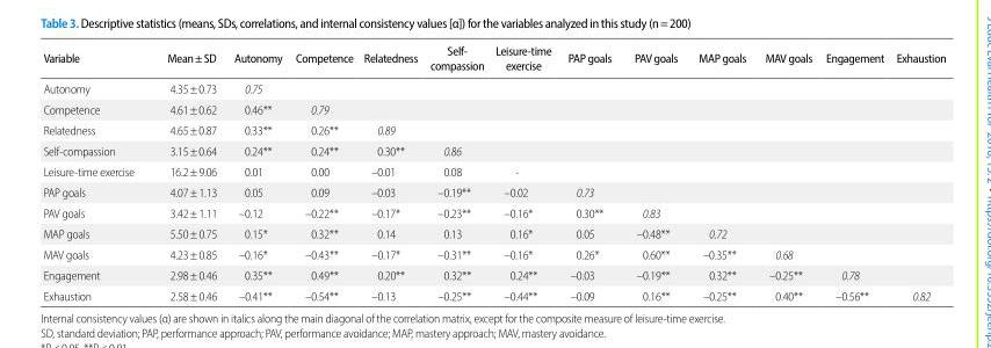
<table><thead><tr><td>Variable</td><td>Mean±SD</td><td>Autonomy</td><td>Competence</td><td>Relatedness</td><td>Self- compassion</td><td>Leisure-time exercise</td><td>PAP goals</td><td>PAV goals</td><td>MAP goals</td><td>MAV goals</td><td>Engagement</td><td>Exhaustion</td></tr></thead><tbody><tr><td>Autonomy</td><td>4.35±0.73</td><td>0.75</td><td></td><td></td><td></td><td></td><td></td><td></td><td></td><td></td><td></td><td></td></tr><tr><td>Competence</td><td>4.61±0.62</td><td>0.46**</td><td>0.79</td><td></td><td></td><td></td><td></td><td></td><td></td><td></td><td></td><td></td></tr><tr><td>Relatedness</td><td>4.65±0.87</td><td>0.33**</td><td>0.26**</td><td>0.89</td><td></td><td></td><td></td><td></td><td></td><td></td><td></td><td></td></tr><tr><td>Self-compassion</td><td>3.15±0.64</td><td>0.24**</td><td>0.24**</td><td>0.30**</td><td>0.86</td><td></td><td></td><td></td><td></td><td></td><td></td><td></td></tr><tr><td>Leisure-time exercise</td><td>16.2±9.06</td><td>0.01</td><td>0.00</td><td>–0.01</td><td>0.08</td><td>-</td><td></td><td></td><td></td><td></td><td></td><td></td></tr><tr><td>PAP goals</td><td>4.07±1.13</td><td>0.05</td><td>0.09</td><td>–0.03</td><td>–0.19**</td><td>–0.02</td><td>0.73</td><td></td><td></td><td></td><td></td><td></td></tr><tr><td>PAV goals</td><td>3.42±1.11</td><td>–0.12</td><td>–0.22**</td><td>–0.17*</td><td>–0.23**</td><td>–0.16*</td><td>0.30**</td><td>0.83</td><td></td><td></td><td></td><td></td></tr><tr><td>MAP goals</td><td>5.50±0.75</td><td>0.15*</td><td>0.32**</td><td>0.14</td><td>0.13</td><td>0.16*</td><td>0.05</td><td>–0.48**</td><td>0.72</td><td></td><td></td><td></td></tr><tr><td>MAV goals</td><td>4.23±0.85</td><td>–0.16*</td><td>–0.43**</td><td>–0.17*</td><td>–0.31**</td><td>–0.16*</td><td>0.26*</td><td>0.60**</td><td>–0.35**</td><td>0.68</td><td></td><td></td></tr><tr><td>Engagement</td><td>2.98±0.46</td><td>0.35**</td><td>0.49**</td><td>0.20**</td><td>0.32**</td><td>0.24**</td><td>–0.03</td><td>–0.19**</td><td>0.32**</td><td>–0.25**</td><td>0.78</td><td></td></tr><tr><td>Exhaustion</td><td>2.58±0.46</td><td>–0.41**</td><td>–0.54**</td><td>–0.13</td><td>–0.25**</td><td>–0.44**</td><td>–0.09</td><td>0.16**</td><td>–0.25**</td><td>0.40**</td><td>–0.56**</td><td>0.82</td></tr></tbody></table>